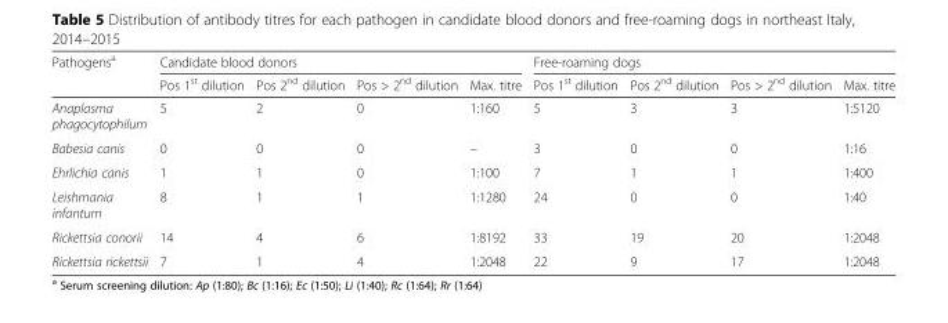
<table><thead><tr><td rowspan="2">Pathogens<sup>a</sup></td><td colspan="4">Candidate blood donors</td><td colspan="4">Free-roaming dogs</td></tr><tr><td>Pos 1<sup>st</sup> dilution</td><td>Pos 2<sup>nd</sup> dilution</td><td>Pos &gt; 2<sup>nd</sup> dilution</td><td>Max. titre</td><td>Pos 1<sup>st</sup> dilution</td><td>Pos 2<sup>nd</sup> dilution</td><td>Pos &gt; 2<sup>nd</sup> dilution</td><td>Max. titre</td></tr></thead><tbody><tr><td>Anaplasma phagocytophilum</td><td>5</td><td>2</td><td>0</td><td>1:160</td><td>5</td><td>3</td><td>3</td><td>1:5120</td></tr><tr><td>Babesia canis</td><td>0</td><td>0</td><td>0</td><td>–</td><td>3</td><td>0</td><td>0</td><td>1:16</td></tr><tr><td>Ehrlichia canis</td><td>1</td><td>1</td><td>0</td><td>1:100</td><td>7</td><td>1</td><td>1</td><td>1:400</td></tr><tr><td>Leishmania infantum</td><td>8</td><td>1</td><td>1</td><td>1:1280</td><td>24</td><td>0</td><td>0</td><td>1:40</td></tr><tr><td>Rickettsia conorii</td><td>14</td><td>4</td><td>6</td><td>1:8192</td><td>33</td><td>19</td><td>20</td><td>1:2048</td></tr><tr><td>Rickettsia rickettsii</td><td>7</td><td>1</td><td>4</td><td>1:2048</td><td>22</td><td>9</td><td>17</td><td>1:2048</td></tr></tbody></table>